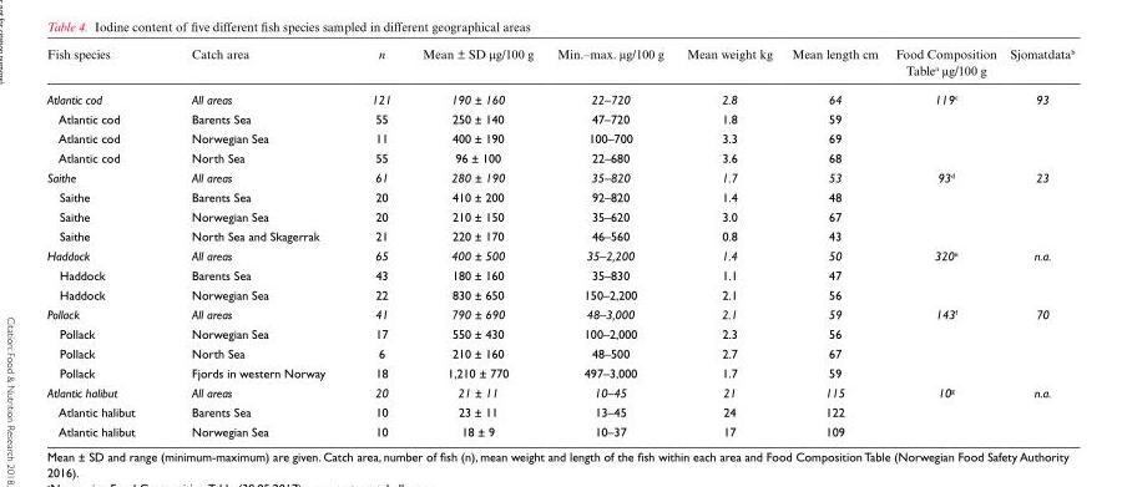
<table><thead><tr><td>Fish species</td><td>Catch area</td><td>n</td><td>Mean ± SD µg/100 g</td><td>Min.–max. µg/100 g</td><td>Mean weight kg</td><td>Mean length cm</td><td>Food Composition Table<sup>a</sup> µg/100 g</td><td>Sjomatdata<sup>b</sup></td></tr></thead><tbody><tr><td>Atlantic cod</td><td>All areas</td><td>121</td><td>190 ± 160</td><td>22–720</td><td>2.8</td><td>64</td><td>119<sup>c</sup></td><td>93</td></tr><tr><td>Atlantic cod</td><td>Barents Sea</td><td>55</td><td>250 ± 140</td><td>47–720</td><td>1.8</td><td>59</td><td></td><td></td></tr><tr><td>Atlantic cod</td><td>Norwegian Sea</td><td>11</td><td>400 ± 190</td><td>100–700</td><td>3.3</td><td>69</td><td></td><td></td></tr><tr><td>Atlantic cod</td><td>North Sea</td><td>55</td><td>96 ± 100</td><td>22–680</td><td>3.6</td><td>68</td><td></td><td></td></tr><tr><td>Saithe</td><td>All areas</td><td>61</td><td>280 ± 190</td><td>35–820</td><td>1.7</td><td>53</td><td>93<sup>d</sup></td><td>23</td></tr><tr><td>Saithe</td><td>Barents Sea</td><td>20</td><td>410 ± 200</td><td>92–820</td><td>1.4</td><td>48</td><td></td><td></td></tr><tr><td>Saithe</td><td>Norwegian Sea</td><td>20</td><td>210 ± 150</td><td>35–620</td><td>3.0</td><td>67</td><td></td><td></td></tr><tr><td>Saithe</td><td>North Sea and Skagerrak</td><td>21</td><td>220 ± 170</td><td>46–560</td><td>0.8</td><td>43</td><td></td><td></td></tr><tr><td>Haddock</td><td>All areas</td><td>65</td><td>400 ± 500</td><td>35–2,200</td><td>1.4</td><td>50</td><td>320<sup>e</sup></td><td>n.a.</td></tr><tr><td>Haddock</td><td>Barents Sea</td><td>43</td><td>180 ± 160</td><td>35–830</td><td>1.1</td><td>47</td><td></td><td></td></tr><tr><td>Haddock</td><td>Norwegian Sea</td><td>22</td><td>830 ± 650</td><td>150–2,200</td><td>2.1</td><td>56</td><td></td><td></td></tr><tr><td>Pollack</td><td>All areas</td><td>41</td><td>790 ± 690</td><td>48–3,000</td><td>2.1</td><td>59</td><td>143<sup>f</sup></td><td>70</td></tr><tr><td>Pollack</td><td>Norwegian Sea</td><td>17</td><td>550 ± 430</td><td>100–2,000</td><td>2.3</td><td>56</td><td></td><td></td></tr><tr><td>Pollack</td><td>North Sea</td><td>6</td><td>210 ± 160</td><td>48–500</td><td>2.7</td><td>67</td><td></td><td></td></tr><tr><td>Pollack</td><td>Fjords in western Norway</td><td>18</td><td>1,210 ± 770</td><td>497–3,000</td><td>1.7</td><td>59</td><td></td><td></td></tr><tr><td>Atlantic halibut</td><td>All areas</td><td>20</td><td>21 ± 11</td><td>10–45</td><td>21</td><td>115</td><td>10<sup>g</sup></td><td>n.a.</td></tr><tr><td>Atlantic halibut</td><td>Barents Sea</td><td>10</td><td>23 ± 11</td><td>13–45</td><td>24</td><td>122</td><td></td><td></td></tr><tr><td>Atlantic halibut</td><td>Norwegian Sea</td><td>10</td><td>18 ± 9</td><td>10–37</td><td>17</td><td>109</td><td></td><td></td></tr></tbody></table>